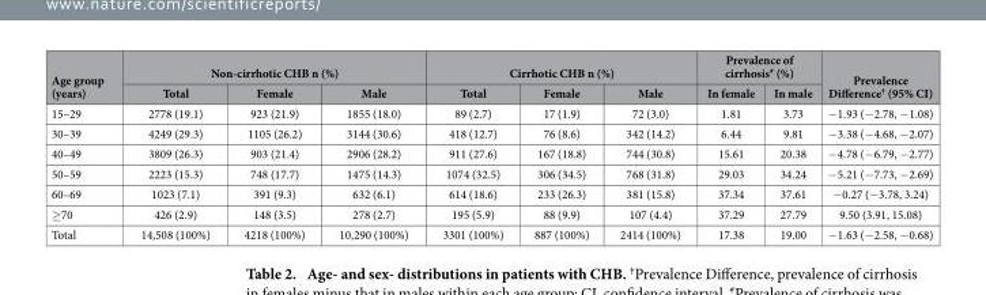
<table><thead><tr><td rowspan="2">Age group (years)</td><td colspan="3">Non-cirrhotic CHB n (%)</td><td colspan="3">Cirrhotic CHB n (%)</td><td colspan="2">Prevalence of cirrhosis<sup>#</sup> (%)</td><td rowspan="2">Prevalence Difference<sup>†</sup> (95% CI)</td></tr><tr><td>Total</td><td>Female</td><td>Male</td><td>Total</td><td>Female</td><td>Male</td><td>In female</td><td>In male</td></tr></thead><tbody><tr><td>15–29</td><td>2778 (19.1)</td><td>923 (21.9)</td><td>1855 (18.0)</td><td>89 (2.7)</td><td>17 (1.9)</td><td>72 (3.0)</td><td>1.81</td><td>3.73</td><td>− 1.93 (− 2.78, − 1.08)</td></tr><tr><td>30–39</td><td>4249 (29.3)</td><td>1105 (26.2)</td><td>3144 (30.6)</td><td>418 (12.7)</td><td>76 (8.6)</td><td>342 (14.2)</td><td>6.44</td><td>9.81</td><td>− 3.38 (− 4.68, − 2.07)</td></tr><tr><td>40–49</td><td>3809 (26.3)</td><td>903 (21.4)</td><td>2906 (28.2)</td><td>911 (27.6)</td><td>167 (18.8)</td><td>744 (30.8)</td><td>15.61</td><td>20.38</td><td>− 4.78 (− 6.79, − 2.77)</td></tr><tr><td>50–59</td><td>2223 (15.3)</td><td>748 (17.7)</td><td>1475 (14.3)</td><td>1074 (32.5)</td><td>306 (34.5)</td><td>768 (31.8)</td><td>29.03</td><td>34.24</td><td>− 5.21 (− 7.73, − 2.69)</td></tr><tr><td>60–69</td><td>1023 (7.1)</td><td>391 (9.3)</td><td>632 (6.1)</td><td>614 (18.6)</td><td>233 (26.3)</td><td>381 (15.8)</td><td>37.34</td><td>37.61</td><td>− 0.27 (− 3.78, 3.24)</td></tr><tr><td>≥ 70</td><td>426 (2.9)</td><td>148 (3.5)</td><td>278 (2.7)</td><td>195 (5.9)</td><td>88 (9.9)</td><td>107 (4.4)</td><td>37.29</td><td>27.79</td><td>9.50 (3.91, 15.08)</td></tr><tr><td>Total</td><td>14,508 (100%)</td><td>4218 (100%)</td><td>10,290 (100%)</td><td>3301 (100%)</td><td>887 (100%)</td><td>2414 (100%)</td><td>17.38</td><td>19.00</td><td>− 1.63 (− 2.58, − 0.68)</td></tr></tbody></table>